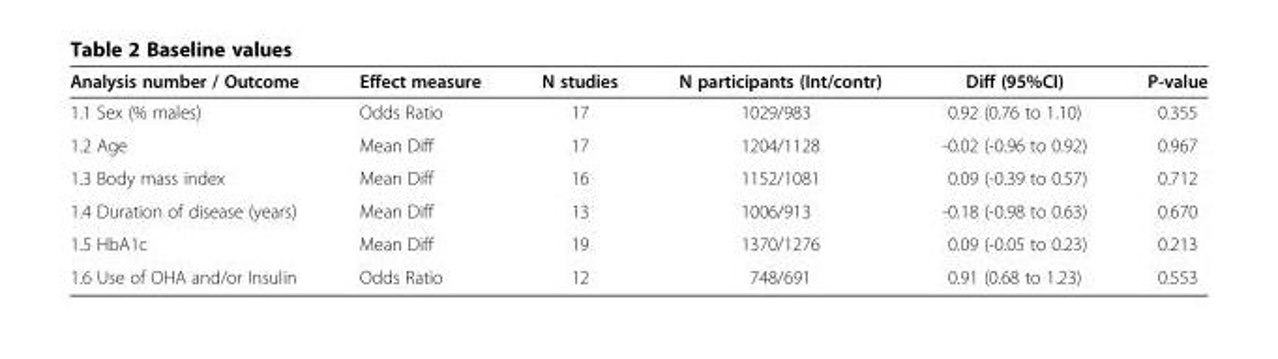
<table><thead><tr><td>Analysis number / Outcome</td><td>Effect measure</td><td>N studies</td><td>N participants (Int/contr)</td><td>Diff (95%CI)</td><td>P-value</td></tr></thead><tbody><tr><td>1.1 Sex (% males)</td><td>Odds Ratio</td><td>17</td><td>1029/983</td><td>0.92 (0.76 to 1.10)</td><td>0.355</td></tr><tr><td>1.2 Age</td><td>Mean Diff</td><td>17</td><td>1204/1128</td><td>-0.02 (-0.96 to 0.92)</td><td>0.967</td></tr><tr><td>1.3 Body mass index</td><td>Mean Diff</td><td>16</td><td>1152/1081</td><td>0.09 (-0.39 to 0.57)</td><td>0.712</td></tr><tr><td>1.4 Duration of disease (years)</td><td>Mean Diff</td><td>13</td><td>1006/913</td><td>-0.18 (-0.98 to 0.63)</td><td>0.670</td></tr><tr><td>1.5 HbA1c</td><td>Mean Diff</td><td>19</td><td>1370/1276</td><td>0.09 (-0.05 to 0.23)</td><td>0.213</td></tr><tr><td>1.6 Use of OHA and/or Insulin</td><td>Odds Ratio</td><td>12</td><td>748/691</td><td>0.91 (0.68 to 1.23)</td><td>0.553</td></tr></tbody></table>